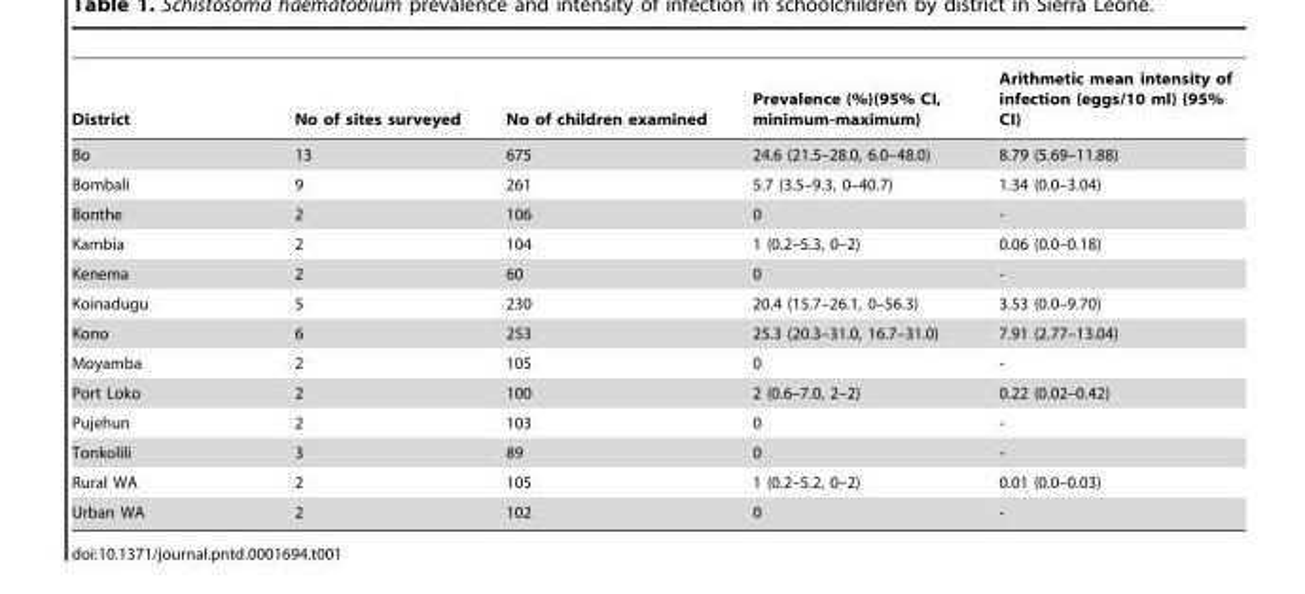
<table><thead><tr><td>District</td><td>No of sites surveyed</td><td>No of children examined</td><td>Prevalence (%)(95% CI, minimum-maximum)</td><td>Arithmetic mean intensity of infection (eggs/10 ml) (95% CI)</td></tr></thead><tbody><tr><td>Bo</td><td>13</td><td>675</td><td>24.6 (21.5–28.0, 6.0–48.0)</td><td>8.79 (5.69–11.88)</td></tr><tr><td>Bombali</td><td>9</td><td>261</td><td>5.7 (3.5–9.3, 0–40.7)</td><td>1.34 (0.0–3.04)</td></tr><tr><td>Bonthe</td><td>2</td><td>106</td><td>0</td><td>-</td></tr><tr><td>Kambia</td><td>2</td><td>104</td><td>1 (0.2–5.3, 0–2)</td><td>0.06 (0.0–0.18)</td></tr><tr><td>Kenema</td><td>2</td><td>60</td><td>0</td><td>-</td></tr><tr><td>Koinadugu</td><td>5</td><td>230</td><td>20.4 (15.7–26.1, 0–56.3)</td><td>3.53 (0.0–9.70)</td></tr><tr><td>Kono</td><td>6</td><td>253</td><td>25.3 (20.3–31.0, 16.7–31.0)</td><td>7.91 (2.77–13.04)</td></tr><tr><td>Moyamba</td><td>2</td><td>105</td><td>0</td><td>-</td></tr><tr><td>Port Loko</td><td>2</td><td>100</td><td>2 (0.6–7.0, 2–2)</td><td>0.22 (0.02–0.42)</td></tr><tr><td>Pujehun</td><td>2</td><td>103</td><td>0</td><td>-</td></tr><tr><td>Tonkolili</td><td>3</td><td>89</td><td>0</td><td>-</td></tr><tr><td>Rural WA</td><td>2</td><td>105</td><td>1 (0.2–5.2, 0–2)</td><td>0.01 (0.0–0.03)</td></tr><tr><td>Urban WA</td><td>2</td><td>102</td><td>0</td><td>-</td></tr></tbody></table>